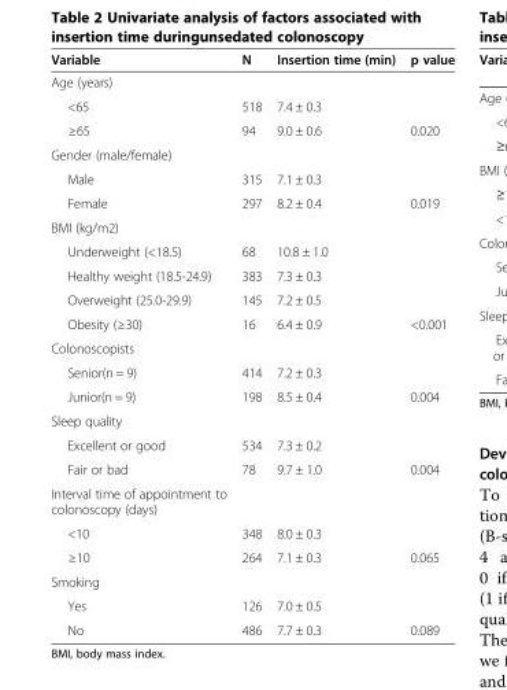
<table><thead><tr><td>Variable</td><td>N</td><td>Insertion time (min)</td><td>p value</td></tr></thead><tbody><tr><td colspan="4">Age (years)</td></tr><tr><td>&lt;65</td><td>518</td><td>7.4 ± 0.3</td><td></td></tr><tr><td>≥65</td><td>94</td><td>9.0 ± 0.6</td><td>0.020</td></tr><tr><td colspan="4">Gender (male/female)</td></tr><tr><td>Male</td><td>315</td><td>7.1 ± 0.3</td><td></td></tr><tr><td>Female</td><td>297</td><td>8.2 ± 0.4</td><td>0.019</td></tr><tr><td colspan="4">BMI (kg/m2)</td></tr><tr><td>Underweight (&lt;18.5)</td><td>68</td><td>10.8 ± 1.0</td><td></td></tr><tr><td>Healthy weight (18.5-24.9)</td><td>383</td><td>7.3 ± 0.3</td><td></td></tr><tr><td>Overweight (25.0-29.9)</td><td>145</td><td>7.2 ± 0.5</td><td></td></tr><tr><td>Obesity (≥30)</td><td>16</td><td>6.4 ± 0.9</td><td>&lt;0.001</td></tr><tr><td colspan="4">Colonoscopists</td></tr><tr><td>Senior(n = 9)</td><td>414</td><td>7.2 ± 0.3</td><td></td></tr><tr><td>Junior(n = 9)</td><td>198</td><td>8.5 ± 0.4</td><td>0.004</td></tr><tr><td colspan="4">Sleep quality</td></tr><tr><td>Excellent or good</td><td>534</td><td>7.3 ± 0.2</td><td></td></tr><tr><td>Fair or bad</td><td>78</td><td>9.7 ± 1.0</td><td>0.004</td></tr><tr><td colspan="4">Interval time of appointment to colonoscopy (days)</td></tr><tr><td>&lt;10</td><td>348</td><td>8.0 ± 0.3</td><td></td></tr><tr><td>≥10</td><td>264</td><td>7.1 ± 0.3</td><td>0.065</td></tr><tr><td colspan="4">Smoking</td></tr><tr><td>Yes</td><td>126</td><td>7.0 ± 0.5</td><td></td></tr><tr><td>No</td><td>486</td><td>7.7 ± 0.3</td><td>0.089</td></tr></tbody></table>